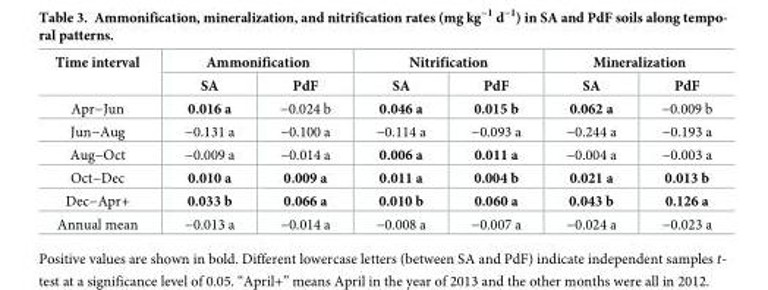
<table><thead><tr><td rowspan="2">Time interval</td><td colspan="2">Ammonification</td><td colspan="2">Nitrification</td><td colspan="2">Mineralization</td></tr><tr><td>SA</td><td>PdF</td><td>SA</td><td>PdF</td><td>SA</td><td>PdF</td></tr></thead><tbody><tr><td>Apr−Jun</td><td>0.016 a</td><td>−0.024 b</td><td>0.046 a</td><td>0.015 b</td><td>0.062 a</td><td>−0.009 b</td></tr><tr><td>Jun−Aug</td><td>−0.131 a</td><td>−0.100 a</td><td>−0.114 a</td><td>−0.093 a</td><td>−0.244 a</td><td>−0.193 a</td></tr><tr><td>Aug−Oct</td><td>−0.009 a</td><td>−0.014 a</td><td>0.006 a</td><td>0.011 a</td><td>−0.004 a</td><td>−0.003 a</td></tr><tr><td>Oct−Dec</td><td>0.010 a</td><td>0.009 a</td><td>0.011 a</td><td>0.004 b</td><td>0.021 a</td><td>0.013 b</td></tr><tr><td>Dec−Apr+</td><td>0.033 b</td><td>0.066 a</td><td>0.010 b</td><td>0.060 a</td><td>0.043 b</td><td>0.126 a</td></tr><tr><td>Annual mean</td><td>−0.013 a</td><td>−0.014 a</td><td>−0.008 a</td><td>−0.007 a</td><td>−0.024 a</td><td>−0.023 a</td></tr></tbody></table>